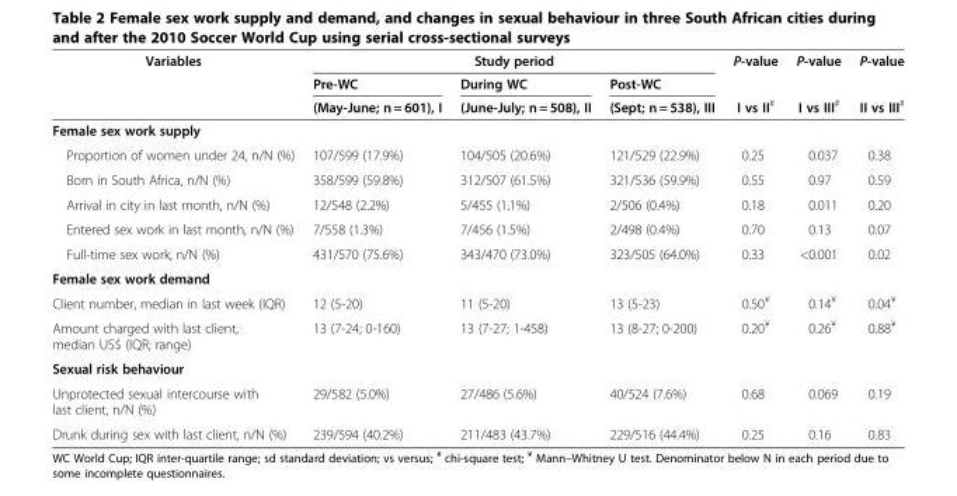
<table><thead><tr><td rowspan="3">Variables</td><td colspan="3">Study period</td><td rowspan="3">P-value I vs II<sup>#</sup></td><td rowspan="3">P-value I vs III<sup>#</sup></td><td rowspan="3">P-value II vs III<sup>#</sup></td></tr><tr><td rowspan="2">Pre-WC (May-June; n = 601), I</td><td rowspan="2">During WC (June-July; n = 508), II</td><td rowspan="2">Post-WC (Sept; n = 538), III</td></tr><tr></tr></thead><tbody><tr><td colspan="7">Female sex work supply</td></tr><tr><td>Proportion of women under 24, n/N (%)</td><td>107/599 (17.9%)</td><td>104/505 (20.6%)</td><td>121/529 (22.9%)</td><td>0.25</td><td>0.037</td><td>0.38</td></tr><tr><td>Born in South Africa, n/N (%)</td><td>358/599 (59.8%)</td><td>312/507 (61.5%)</td><td>321/536 (59.9%)</td><td>0.55</td><td>0.97</td><td>0.59</td></tr><tr><td>Arrival in city in last month, n/N (%)</td><td>12/548 (2.2%)</td><td>5/455 (1.1%)</td><td>2/506 (0.4%)</td><td>0.18</td><td>0.011</td><td>0.20</td></tr><tr><td>Entered sex work in last month, n/N (%)</td><td>7/558 (1.3%)</td><td>7/456 (1.5%)</td><td>2/498 (0.4%)</td><td>0.70</td><td>0.13</td><td>0.07</td></tr><tr><td>Full-time sex work, n/N (%)</td><td>431/570 (75.6%)</td><td>343/470 (73.0%)</td><td>323/505 (64.0%)</td><td>0.33</td><td>&lt;0.001</td><td>0.02</td></tr><tr><td colspan="7">Female sex work demand</td></tr><tr><td>Client number, median in last week (IQR)</td><td>12 (5-20)</td><td>11 (5-20)</td><td>13 (5-23)</td><td>0.50<sup>¥</sup></td><td>0.14<sup>¥</sup></td><td>0.04<sup>¥</sup></td></tr><tr><td>Amount charged with last client, median US$ (IQR; range)</td><td>13 (7-24; 0-160)</td><td>13 (7-27; 1-458)</td><td>13 (8-27; 0-200)</td><td>0.20<sup>¥</sup></td><td>0.26<sup>¥</sup></td><td>0.88<sup>¥</sup></td></tr><tr><td colspan="7">Sexual risk behaviour</td></tr><tr><td>Unprotected sexual intercourse with last client, n/N (%)</td><td>29/582 (5.0%)</td><td>27/486 (5.6%)</td><td>40/524 (7.6%)</td><td>0.68</td><td>0.069</td><td>0.19</td></tr><tr><td>Drunk during sex with last client, n/N (%)</td><td>239/594 (40.2%)</td><td>211/483 (43.7%)</td><td>229/516 (44.4%)</td><td>0.25</td><td>0.16</td><td>0.83</td></tr></tbody></table>